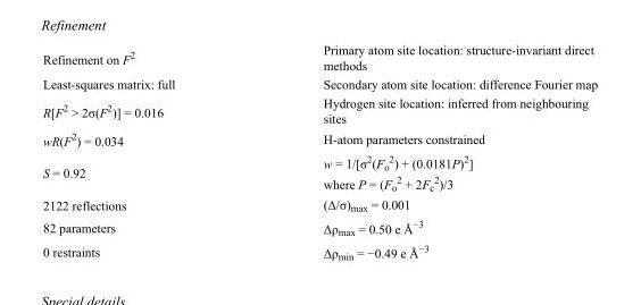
<table><tbody><tr><td>Refinement on F<sup>2</sup></td><td>Primary atom site location: structure-invariant direct methods</td></tr><tr><td>Least-squares matrix: full</td><td>Secondary atom site location: difference Fourier map</td></tr><tr><td>R[F<sup>2</sup> &gt; 2σ(F<sup>2</sup>)] = 0.016</td><td>Hydrogen site location: inferred from neighbouring sites</td></tr><tr><td>wR(F<sup>2</sup>) = 0.034</td><td>H-atom parameters constrained</td></tr><tr><td>S = 0.92</td><td>w = 1/[σ<sup>2</sup>(F<sub>o</sub> <sup>2</sup>) + (0.0181P)<sup>2</sup>] where P = (F<sub>o</sub> <sup>2</sup> + 2F<sub>c</sub> <sup>2</sup>)/3</td></tr><tr><td>2122 reflections</td><td>(Δ/σ)<sub>max</sub> = 0.001</td></tr><tr><td>82 parameters</td><td>Δρ<sub>max</sub> = 0.50 e Å<sup>−3</sup></td></tr><tr><td>0 restraints</td><td>Δρ<sub>min</sub> = −0.49 e Å<sup>−3</sup></td></tr></tbody></table>